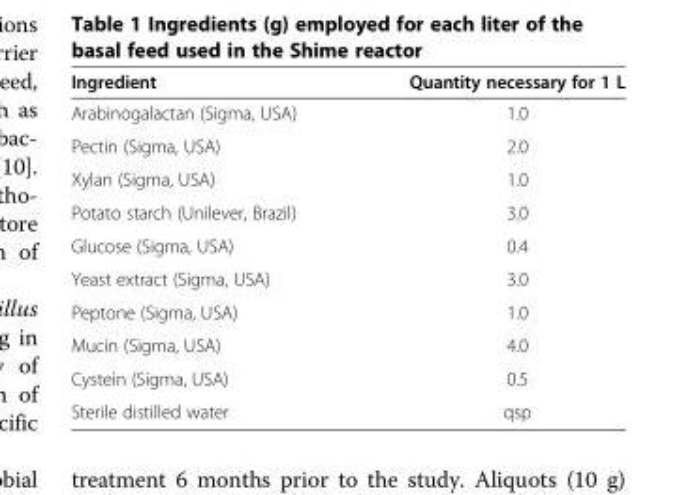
<table><thead><tr><td>Ingredient</td><td>Quantity necessary for 1 L</td></tr></thead><tbody><tr><td>Arabinogalactan (Sigma, USA)</td><td>1.0</td></tr><tr><td>Pectin (Sigma, USA)</td><td>2.0</td></tr><tr><td>Xylan (Sigma, USA)</td><td>1.0</td></tr><tr><td>Potato starch (Unilever, Brazil)</td><td>3.0</td></tr><tr><td>Glucose (Sigma, USA)</td><td>0.4</td></tr><tr><td>Yeast extract (Sigma, USA)</td><td>3.0</td></tr><tr><td>Peptone (Sigma, USA)</td><td>1.0</td></tr><tr><td>Mucin (Sigma, USA)</td><td>4.0</td></tr><tr><td>Cystein (Sigma, USA)</td><td>0.5</td></tr><tr><td>Sterile distilled water</td><td>qsp</td></tr></tbody></table>